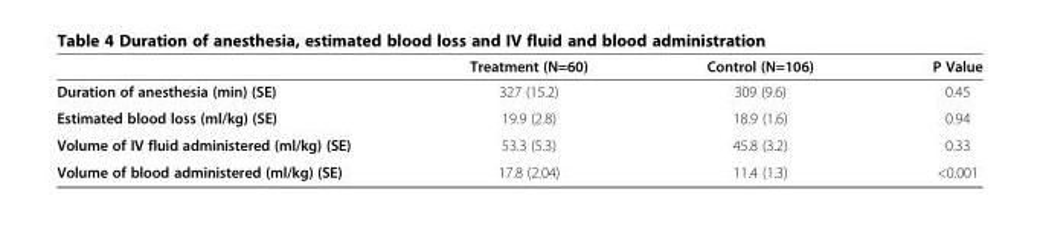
<table><thead><tr><td></td><td>Treatment (N=60)</td><td>Control (N=106)</td><td>P Value</td></tr></thead><tbody><tr><td>Duration of anesthesia (min) (SE)</td><td>327 (15.2)</td><td>309 (9.6)</td><td>0.45</td></tr><tr><td>Estimated blood loss (ml/kg) (SE)</td><td>19.9 (2.8)</td><td>18.9 (1.6)</td><td>0.94</td></tr><tr><td>Volume of IV fluid administered (ml/kg) (SE)</td><td>53.3 (5.3)</td><td>45.8 (3.2)</td><td>0.33</td></tr><tr><td>Volume of blood administered (ml/kg) (SE)</td><td>17.8 (2.04)</td><td>11.4 (1.3)</td><td>&lt;0.001</td></tr></tbody></table>